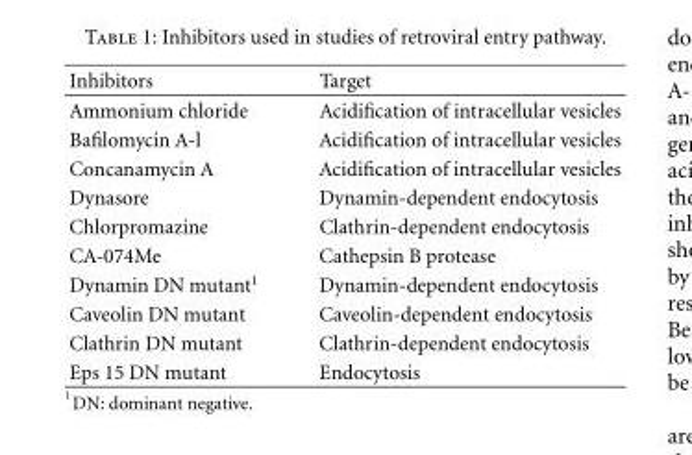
<table><thead><tr><td>Inhibitors</td><td>Target</td></tr></thead><tbody><tr><td>Ammonium chloride</td><td>Acidification of intracellular vesicles</td></tr><tr><td>Bafilomycin A-l</td><td>Acidification of intracellular vesicles</td></tr><tr><td>Concanamycin A</td><td>Acidification of intracellular vesicles</td></tr><tr><td>Dynasore</td><td>Dynamin-dependent endocytosis</td></tr><tr><td>Chlorpromazine</td><td>Clathrin-dependent endocytosis</td></tr><tr><td>CA-074Me</td><td>Cathepsin B protease</td></tr><tr><td>Dynamin DN mutant<sup>1</sup></td><td>Dynamin-dependent endocytosis</td></tr><tr><td>Caveolin DN mutant</td><td>Caveolin-dependent endocytosis</td></tr><tr><td>Clathrin DN mutant</td><td>Clathrin-dependent endocytosis</td></tr><tr><td>Eps 15 DN mutant</td><td>Endocytosis</td></tr></tbody></table>